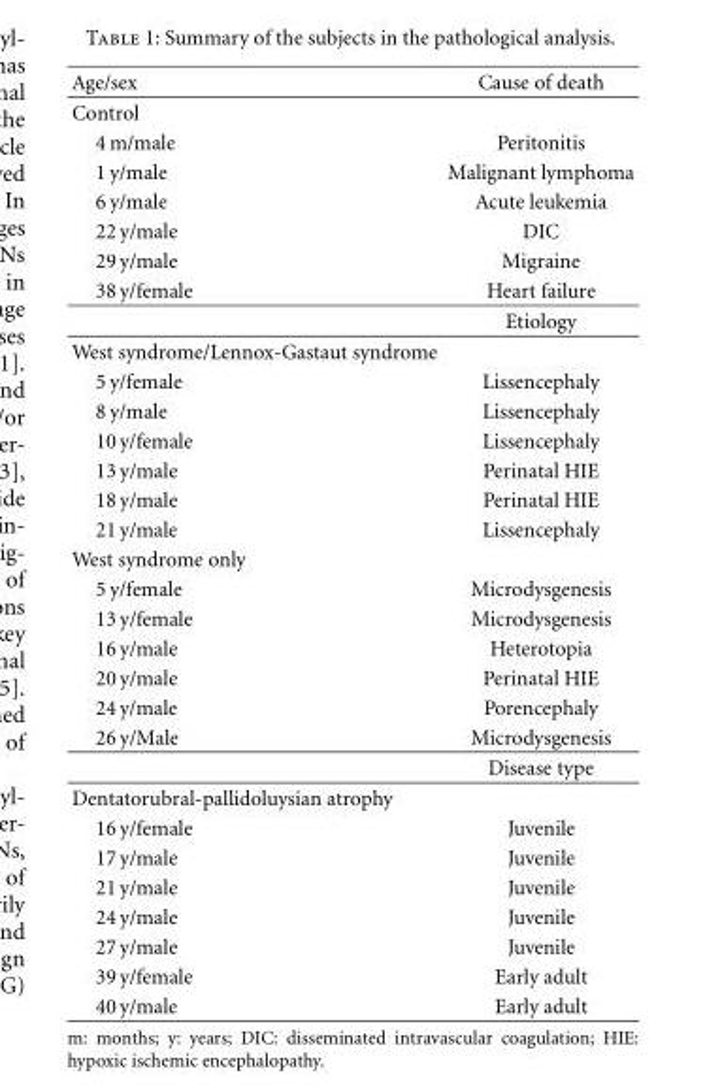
<table><thead><tr><td>Age/sex</td><td>Cause of death</td></tr></thead><tbody><tr><td colspan="2">Control</td></tr><tr><td>4 m/male</td><td>Peritonitis</td></tr><tr><td>1 y/male</td><td>Malignant lymphoma</td></tr><tr><td>6 y/male</td><td>Acute leukemia</td></tr><tr><td>22 y/male</td><td>DIC</td></tr><tr><td>29 y/male</td><td>Migraine</td></tr><tr><td rowspan="2">38 y/female</td><td>Heart failure</td></tr><tr><td>Etiology</td></tr><tr><td colspan="2">West syndrome/Lennox-Gastaut syndrome</td></tr><tr><td>5 y/female</td><td>Lissencephaly</td></tr><tr><td>8 y/male</td><td>Lissencephaly</td></tr><tr><td>10 y/female</td><td>Lissencephaly</td></tr><tr><td>13 y/male</td><td>Perinatal HIE</td></tr><tr><td>18 y/male</td><td>Perinatal HIE</td></tr><tr><td>21 y/male</td><td>Lissencephaly</td></tr><tr><td colspan="2">West syndrome only</td></tr><tr><td>5 y/female</td><td>Microdysgenesis</td></tr><tr><td>13 y/female</td><td>Microdysgenesis</td></tr><tr><td>16 y/male</td><td>Heterotopia</td></tr><tr><td>20 y/male</td><td>Perinatal HIE</td></tr><tr><td>24 y/male</td><td>Porencephaly</td></tr><tr><td rowspan="2">26 y/Male</td><td>Microdysgenesis</td></tr><tr><td>Disease type</td></tr><tr><td colspan="2">Dentatorubral-pallidoluysian atrophy</td></tr><tr><td>16 y/female</td><td>Juvenile</td></tr><tr><td>17 y/male</td><td>Juvenile</td></tr><tr><td>21 y/male</td><td>Juvenile</td></tr><tr><td>24 y/male</td><td>Juvenile</td></tr><tr><td>27 y/male</td><td>Juvenile</td></tr><tr><td>39 y/female</td><td>Early adult</td></tr><tr><td>40 y/male</td><td>Early adult</td></tr></tbody></table>